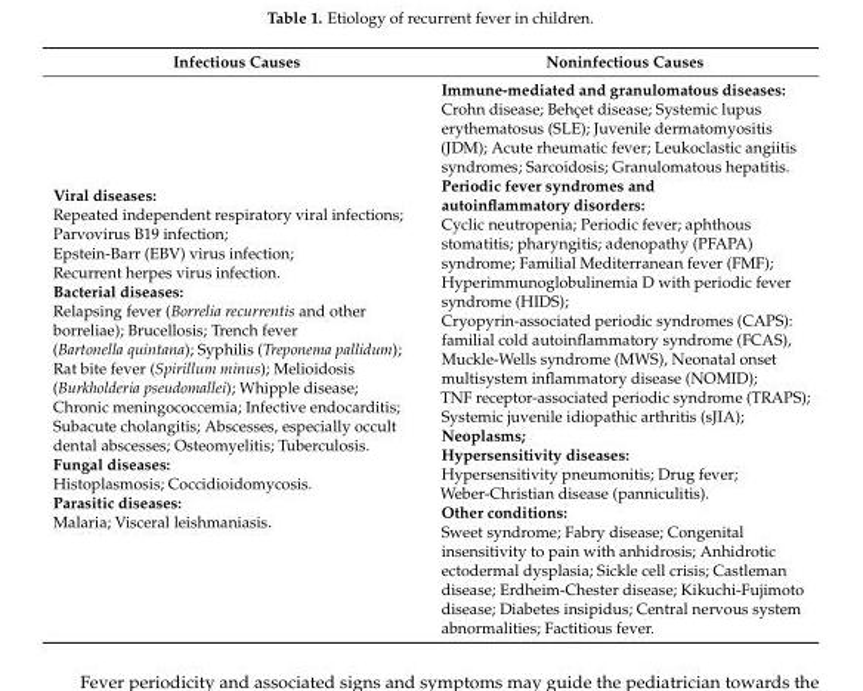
<table><thead><tr><td>Infectious Causes</td><td>Noninfectious Causes</td></tr></thead><tbody><tr><td>Viral diseases: Repeated independent respiratory viral infections; Parvovirus B19 infection; Epstein-Barr (EBV) virus infection; Recurrent herpes virus infection. Bacterial diseases: Relapsing fever (Borrelia recurrentis and other borreliae); Brucellosis; Trench fever (Bartonella quintana); Syphilis (Treponema pallidum); Rat bite fever (Spirillum minus); Melioidosis (Burkholderia pseudomallei); Whipple disease; Chronic meningococcemia; Infective endocarditis; Subacute cholangitis; Abscesses, especially occult dental abscesses; Osteomyelitis; Tuberculosis. Fungal diseases: Histoplasmosis; Coccidioidomycosis. Parasitic diseases: Malaria; Visceral leishmaniasis.</td><td>Immune-mediated and granulomatous diseases: Crohn disease; Behçet disease; Systemic lupus erythematosus (SLE); Juvenile dermatomyositis (JDM); Acute rheumatic fever; Leukoclastic angiitis syndromes; Sarcoidosis; Granulomatous hepatitis. Periodic fever syndromes and autoinflammatory disorders: Cyclic neutropenia; Periodic fever; aphthous stomatitis; pharyngitis; adenopathy (PFAPA) syndrome; Familial Mediterranean fever (FMF); Hyperimmunoglobulinemia D with periodic fever syndrome (HIDS); Cryopyrin-associated periodic syndromes (CAPS): familial cold autoinflammatory syndrome (FCAS), Muckle-Wells syndrome (MWS), Neonatal onset multisystem inflammatory disease (NOMID); TNF receptor-associated periodic syndrome (TRAPS); Systemic juvenile idiopathic arthritis (sJIA); Neoplasms; Hypersensitivity diseases: Hypersensitivity pneumonitis; Drug fever; Weber-Christian disease (panniculitis). Other conditions: Sweet syndrome; Fabry disease; Congenital insensitivity to pain with anhidrosis; Anhidrotic ectodermal dysplasia; Sickle cell crisis; Castleman disease; Erdheim-Chester disease; Kikuchi-Fujimoto disease; Diabetes insipidus; Central nervous system abnormalities; Factitious fever.</td></tr></tbody></table>